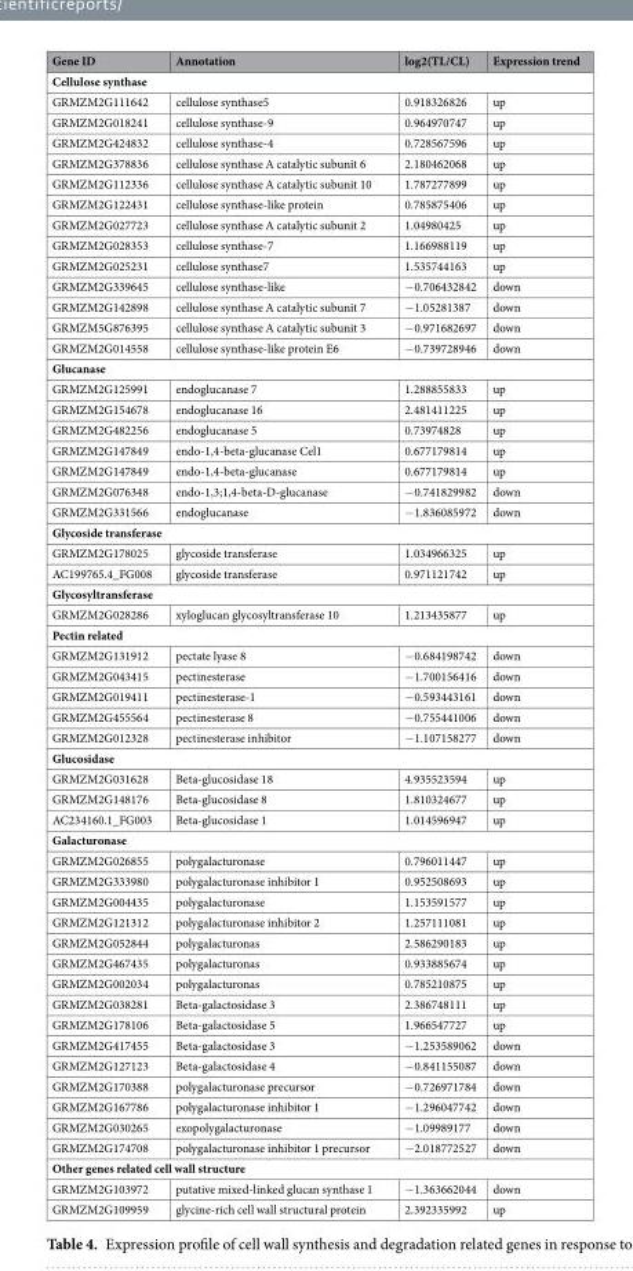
<table><thead><tr><td>Gene ID</td><td>Annotation</td><td>log2(TL/CL)</td><td>Expression trend</td></tr></thead><tbody><tr><td colspan="4">Cellulose synthase</td></tr><tr><td>GRMZM2G111642</td><td>cellulose synthase5</td><td>0.918326826</td><td>up</td></tr><tr><td>GRMZM2G018241</td><td>cellulose synthase-9</td><td>0.964970747</td><td>up</td></tr><tr><td>GRMZM2G424832</td><td>cellulose synthase-4</td><td>0.728567596</td><td>up</td></tr><tr><td>GRMZM2G378836</td><td>cellulose synthase A catalytic subunit 6</td><td>2.180462068</td><td>up</td></tr><tr><td>GRMZM2G112336</td><td>cellulose synthase A catalytic subunit 10</td><td>1.787277899</td><td>up</td></tr><tr><td>GRMZM2G122431</td><td>cellulose synthase-like protein</td><td>0.785875406</td><td>up</td></tr><tr><td>GRMZM2G027723</td><td>cellulose synthase A catalytic subunit 2</td><td>1.04980425</td><td>up</td></tr><tr><td>GRMZM2G028353</td><td>cellulose synthase-7</td><td>1.166988119</td><td>up</td></tr><tr><td>GRMZM2G025231</td><td>cellulose synthase7</td><td>1.535744163</td><td>up</td></tr><tr><td>GRMZM2G339645</td><td>cellulose synthase-like</td><td>−0.706432842</td><td>down</td></tr><tr><td>GRMZM2G142898</td><td>cellulose synthase A catalytic subunit 7</td><td>−1.05281387</td><td>down</td></tr><tr><td>GRMZM5G876395</td><td>cellulose synthase A catalytic subunit 3</td><td>−0.971682697</td><td>down</td></tr><tr><td>GRMZM2G014558</td><td>cellulose synthase-like protein E6</td><td>−0.739728946</td><td>down</td></tr><tr><td colspan="4">Glucanase</td></tr><tr><td>GRMZM2G125991</td><td>endoglucanase 7</td><td>1.288855833</td><td>up</td></tr><tr><td>GRMZM2G154678</td><td>endoglucanase 16</td><td>2.481411225</td><td>up</td></tr><tr><td>GRMZM2G482256</td><td>endoglucanase 5</td><td>0.73974828</td><td>up</td></tr><tr><td>GRMZM2G147849</td><td>endo-1,4-beta-glucanase Cel1</td><td>0.677179814</td><td>up</td></tr><tr><td>GRMZM2G147849</td><td>endo-1,4-beta-glucanase</td><td>0.677179814</td><td>up</td></tr><tr><td>GRMZM2G076348</td><td>endo-1,3;1,4-beta-D-glucanase</td><td>−0.741829982</td><td>down</td></tr><tr><td>GRMZM2G331566</td><td>endoglucanase</td><td>−1.836085972</td><td>down</td></tr><tr><td colspan="4">Glycoside transferase</td></tr><tr><td>GRMZM2G178025</td><td>glycoside transferase</td><td>1.034966325</td><td>up</td></tr><tr><td>AC199765.4_FG008</td><td>glycoside transferase</td><td>0.971121742</td><td>up</td></tr><tr><td colspan="4">Glycosyltransferase</td></tr><tr><td>GRMZM2G028286</td><td>xyloglucan glycosyltransferase 10</td><td>1.213435877</td><td>up</td></tr><tr><td colspan="4">Pectin related</td></tr><tr><td>GRMZM2G131912</td><td>pectate lyase 8</td><td>−0.684198742</td><td>down</td></tr><tr><td>GRMZM2G043415</td><td>pectinesterase</td><td>−1.700156416</td><td>down</td></tr><tr><td>GRMZM2G019411</td><td>pectinesterase-1</td><td>−0.593443161</td><td>down</td></tr><tr><td>GRMZM2G455564</td><td>pectinesterase 8</td><td>−0.755441006</td><td>down</td></tr><tr><td>GRMZM2G012328</td><td>pectinesterase inhibitor</td><td>−1.107158277</td><td>down</td></tr><tr><td colspan="4">Glucosidase</td></tr><tr><td>GRMZM2G031628</td><td>Beta-glucosidase 18</td><td>4.935523594</td><td>up</td></tr><tr><td>GRMZM2G148176</td><td>Beta-glucosidase 8</td><td>1.810324677</td><td>up</td></tr><tr><td>AC234160.1_FG003</td><td>Beta-glucosidase 1</td><td>1.014596947</td><td>up</td></tr><tr><td colspan="4">Galacturonase</td></tr><tr><td>GRMZM2G026855</td><td>polygalacturonase</td><td>0.796011447</td><td>up</td></tr><tr><td>GRMZM2G333980</td><td>polygalacturonase inhibitor 1</td><td>0.952508693</td><td>up</td></tr><tr><td>GRMZM2G004435</td><td>polygalacturonase</td><td>1.153591577</td><td>up</td></tr><tr><td>GRMZM2G121312</td><td>polygalacturonase inhibitor 2</td><td>1.257111081</td><td>up</td></tr><tr><td>GRMZM2G052844</td><td>polygalacturonas</td><td>2.586290183</td><td>up</td></tr><tr><td>GRMZM2G467435</td><td>polygalacturonas</td><td>0.933885674</td><td>up</td></tr><tr><td>GRMZM2G002034</td><td>polygalacturonas</td><td>0.785210875</td><td>up</td></tr><tr><td>GRMZM2G038281</td><td>Beta-galactosidase 3</td><td>2.386748111</td><td>up</td></tr><tr><td>GRMZM2G178106</td><td>Beta-galactosidase 5</td><td>1.966547727</td><td>up</td></tr><tr><td>GRMZM2G417455</td><td>Beta-galactosidase 3</td><td>−1.253589062</td><td>down</td></tr><tr><td>GRMZM2G127123</td><td>Beta-galactosidase 4</td><td>−0.841155087</td><td>down</td></tr><tr><td>GRMZM2G170388</td><td>polygalacturonase precursor</td><td>−0.726971784</td><td>down</td></tr><tr><td>GRMZM2G167786</td><td>polygalacturonase inhibitor 1</td><td>−1.296047742</td><td>down</td></tr><tr><td>GRMZM2G030265</td><td>exopolygalacturonase</td><td>−1.09989177</td><td>down</td></tr><tr><td>GRMZM2G174708</td><td>polygalacturonase inhibitor 1 precursor</td><td>−2.018772527</td><td>down</td></tr><tr><td colspan="4">Other genes related cell wall structure</td></tr><tr><td>GRMZM2G103972</td><td>putative mixed-linked glucan synthase 1</td><td>−1.363662044</td><td>down</td></tr><tr><td>GRMZM2G109959</td><td>glycine-rich cell wall structural protein</td><td>2.392335992</td><td>up</td></tr></tbody></table>